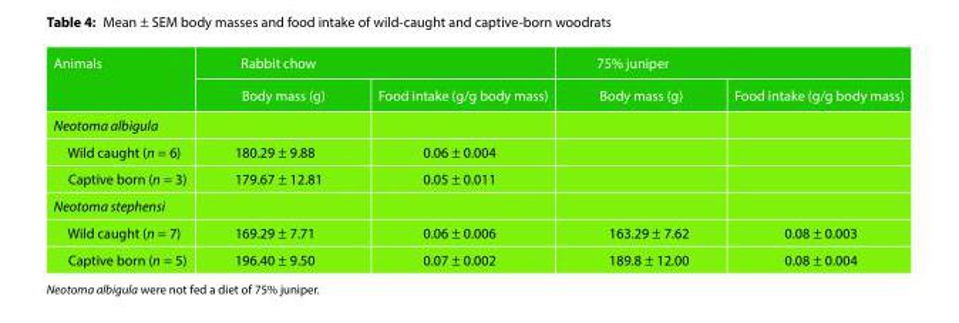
<table><thead><tr><td rowspan="2">Animals</td><td colspan="2">Rabbit chow</td><td colspan="2">75% juniper</td></tr><tr><td>Body mass (g)</td><td>Food intake (g/g body mass)</td><td>Body mass (g)</td><td>Food intake (g/g body mass)</td></tr></thead><tbody><tr><td colspan="5">Neotoma albigula</td></tr><tr><td>Wild caught (n = 6)</td><td>180.29 ± 9.88</td><td>0.06 ± 0.004</td><td></td><td></td></tr><tr><td>Captive born (n = 3)</td><td>179.67 ± 12.81</td><td>0.05 ± 0.011</td><td></td><td></td></tr><tr><td colspan="5">Neotoma stephensi</td></tr><tr><td>Wild caught (n = 7)</td><td>169.29 ± 7.71</td><td>0.06 ± 0.006</td><td>163.29 ± 7.62</td><td>0.08 ± 0.003</td></tr><tr><td>Captive born (n = 5)</td><td>196.40 ± 9.50</td><td>0.07 ± 0.002</td><td>189.8 ± 12.00</td><td>0.08 ± 0.004</td></tr></tbody></table>